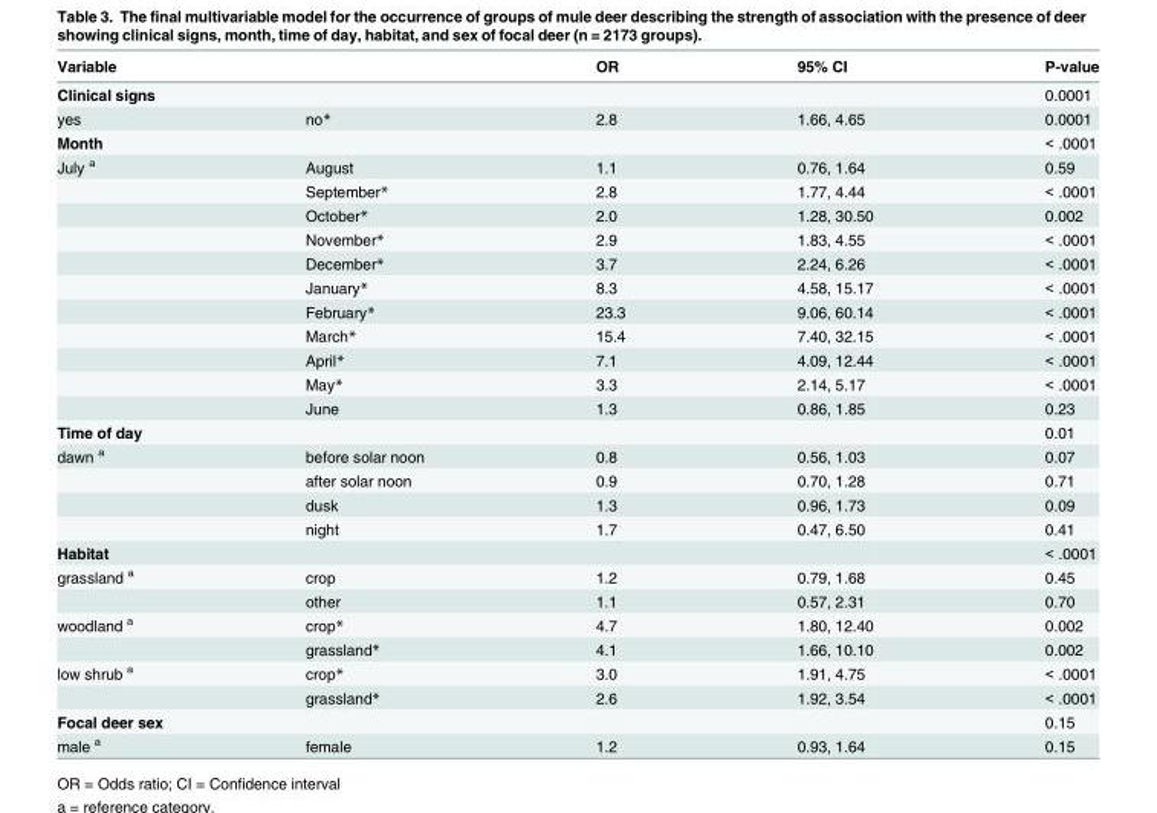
<table><thead><tr><td rowspan="2" colspan="2">Variable Clinical signs</td><td rowspan="3">OR 2.8</td><td rowspan="3">95% CI 1.66, 4.65</td><td rowspan="3">P-value 0.0001 0.0001</td></tr><tr></tr><tr><td>yes</td><td>no*</td></tr></thead><tbody><tr><td colspan="2">Month</td><td></td><td></td><td>&lt; .0001</td></tr><tr><td rowspan="11">July <sup>a</sup></td><td>August</td><td>1.1</td><td>0.76, 1.64</td><td>0.59</td></tr><tr><td>September*</td><td>2.8</td><td>1.77, 4.44</td><td>&lt; .0001</td></tr><tr><td>October*</td><td>2.0</td><td>1.28, 30.50</td><td>0.002</td></tr><tr><td>November*</td><td>2.9</td><td>1.83, 4.55</td><td>&lt; .0001</td></tr><tr><td>December*</td><td>3.7</td><td>2.24, 6.26</td><td>&lt; .0001</td></tr><tr><td>January*</td><td>8.3</td><td>4.58, 15.17</td><td>&lt; .0001</td></tr><tr><td>February*</td><td>23.3</td><td>9.06, 60.14</td><td>&lt; .0001</td></tr><tr><td>March*</td><td>15.4</td><td>7.40, 32.15</td><td>&lt; .0001</td></tr><tr><td>April*</td><td>7.1</td><td>4.09, 12.44</td><td>&lt; .0001</td></tr><tr><td>May*</td><td>3.3</td><td>2.14, 5.17</td><td>&lt; .0001</td></tr><tr><td>June</td><td>1.3</td><td>0.86, 1.85</td><td>0.23</td></tr><tr><td colspan="2">Time of day</td><td></td><td></td><td>0.01</td></tr><tr><td rowspan="4">dawn <sup>a</sup></td><td>before solar noon</td><td>0.8</td><td>0.56, 1.03</td><td>0.07</td></tr><tr><td>after solar noon</td><td>0.9</td><td>0.70, 1.28</td><td>0.71</td></tr><tr><td>dusk</td><td>1.3</td><td>0.96, 1.73</td><td>0.09</td></tr><tr><td>night</td><td>1.7</td><td>0.47, 6.50</td><td>0.41</td></tr><tr><td colspan="2">Habitat</td><td></td><td></td><td>&lt; .0001</td></tr><tr><td rowspan="2">grassland <sup>a</sup></td><td>crop</td><td>1.2</td><td>0.79, 1.68</td><td>0.45</td></tr><tr><td>other</td><td>1.1</td><td>0.57, 2.31</td><td>0.70</td></tr><tr><td rowspan="2">woodland <sup>a</sup></td><td>crop*</td><td>4.7</td><td>1.80, 12.40</td><td>0.002</td></tr><tr><td>grassland*</td><td>4.1</td><td>1.66, 10.10</td><td>0.002</td></tr><tr><td rowspan="2">low shrub <sup>a</sup></td><td>crop*</td><td>3.0</td><td>1.91, 4.75</td><td>&lt; .0001</td></tr><tr><td>grassland*</td><td>2.6</td><td>1.92, 3.54</td><td>&lt; .0001</td></tr><tr><td colspan="2">Focal deer sex</td><td></td><td></td><td>0.15</td></tr><tr><td>male <sup>a</sup></td><td>female</td><td>1.2</td><td>0.93, 1.64</td><td>0.15</td></tr></tbody></table>